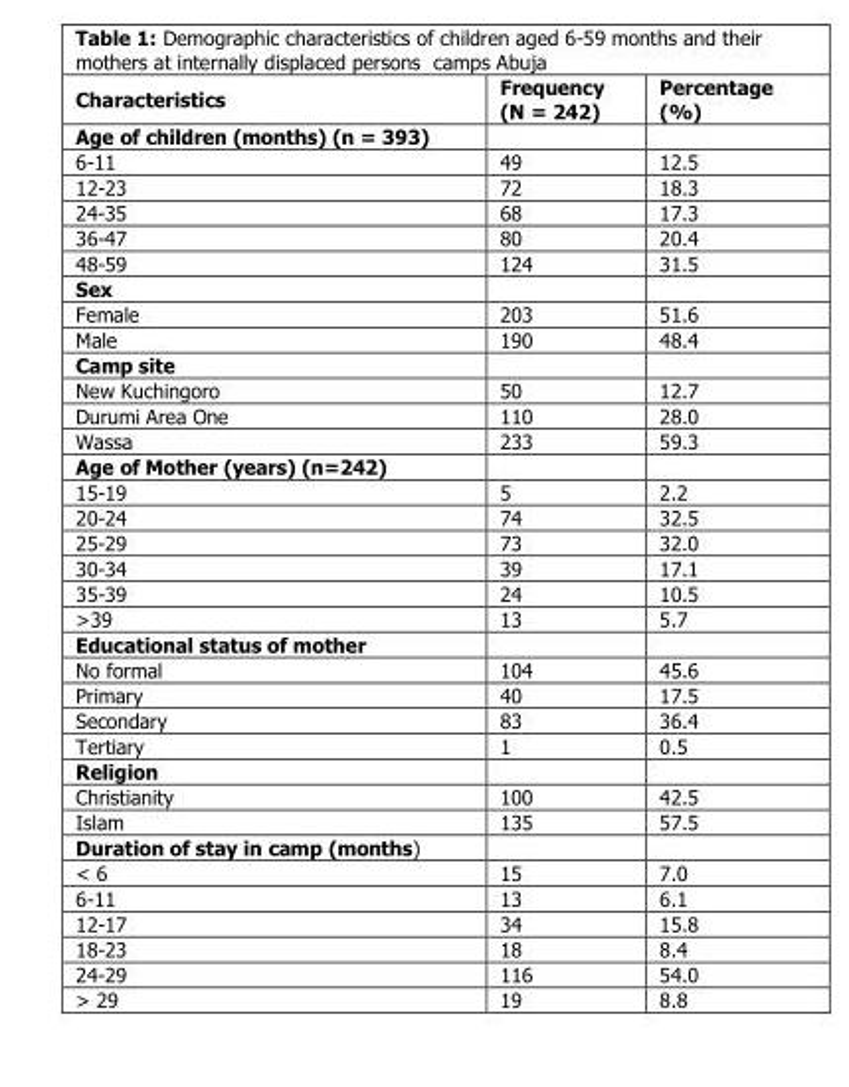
<table><thead><tr><td>Characteristics</td><td>Frequency (N = 242)</td><td>Percentage (%)</td></tr></thead><tbody><tr><td colspan="3">Age of children (months) (n = 393)</td></tr><tr><td>6-11</td><td>49</td><td>12.5</td></tr><tr><td>12-23</td><td>72</td><td>18.3</td></tr><tr><td>24-35</td><td>68</td><td>17.3</td></tr><tr><td>36-47</td><td>80</td><td>20.4</td></tr><tr><td>48-59</td><td>124</td><td>31.5</td></tr><tr><td colspan="3">Sex</td></tr><tr><td>Female</td><td>203</td><td>51.6</td></tr><tr><td>Male</td><td>190</td><td>48.4</td></tr><tr><td colspan="3">Camp site</td></tr><tr><td>New Kuchingoro</td><td>50</td><td>12.7</td></tr><tr><td>Durumi Area One</td><td>110</td><td>28.0</td></tr><tr><td>Wassa</td><td>233</td><td>59.3</td></tr><tr><td colspan="3">Age of Mother (years) (n=242)</td></tr><tr><td>15-19</td><td>5</td><td>2.2</td></tr><tr><td>20-24</td><td>74</td><td>32.5</td></tr><tr><td>25-29</td><td>73</td><td>32.0</td></tr><tr><td>30-34</td><td>39</td><td>17.1</td></tr><tr><td>35-39</td><td>24</td><td>10.5</td></tr><tr><td>&gt;39</td><td>13</td><td>5.7</td></tr><tr><td colspan="3">Educational status of mother</td></tr><tr><td>No formal</td><td>104</td><td>45.6</td></tr><tr><td>Primary</td><td>40</td><td>17.5</td></tr><tr><td>Secondary</td><td>83</td><td>36.4</td></tr><tr><td>Tertiary</td><td>1</td><td>0.5</td></tr><tr><td colspan="3">Religion</td></tr><tr><td>Christianity</td><td>100</td><td>42.5</td></tr><tr><td>Islam</td><td>135</td><td>57.5</td></tr><tr><td colspan="3">Duration of stay in camp (months)</td></tr><tr><td>&lt; 6</td><td>15</td><td>7.0</td></tr><tr><td>6-11</td><td>13</td><td>6.1</td></tr><tr><td>12-17</td><td>34</td><td>15.8</td></tr><tr><td>18-23</td><td>18</td><td>8.4</td></tr><tr><td>24-29</td><td>116</td><td>54.0</td></tr><tr><td>&gt; 29</td><td>19</td><td>8.8</td></tr></tbody></table>